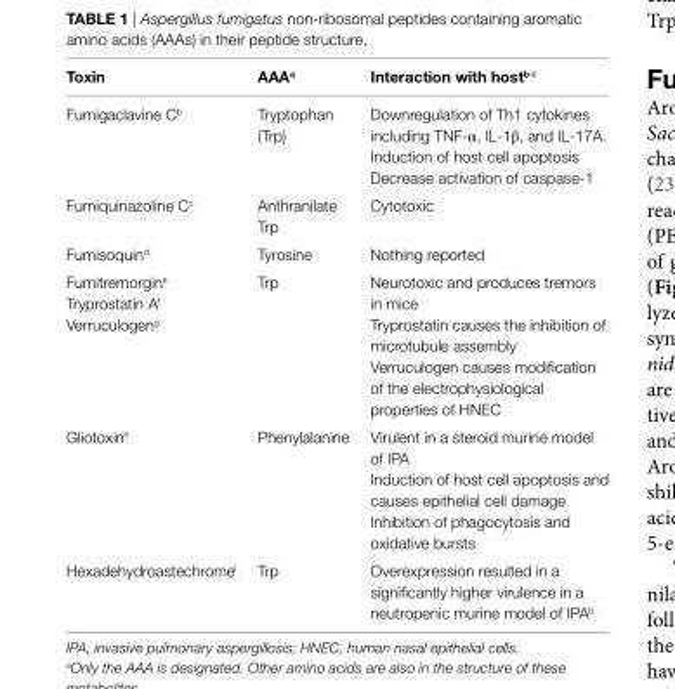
<table><thead><tr><td>Toxin</td><td>AAA<sup>a</sup></td><td>interaction with host<sup>b-i</sup></td></tr></thead><tbody><tr><td>Fumigaclavine C<sup>b</sup></td><td>Tryptophan (Trp)</td><td>Downregulation of Th1 cytokines including TNF-α, IL-1β, and IL-17A. Induction of host cell apoptosis Decrease activation of caspase-1</td></tr><tr><td>Fumiquinazoline C<sup>c</sup></td><td>Anthranilate Trp</td><td>Cytotoxic</td></tr><tr><td>Fumisoquin<sup>d</sup></td><td>Tyrosine</td><td>Nothing reported</td></tr><tr><td>Fumitremorgin<sup>e</sup> Tryprostatin A<sup>f</sup> Verruculogen<sup>g</sup></td><td>Trp</td><td>Neurotoxic and produces tremors in mice Tryprostatin causes the inhibition of microtubule assembly Verruculogen causes modification of the electrophysiological properties of HNEC</td></tr><tr><td>Gliotoxin<sup>h</sup></td><td>Phenylalanine</td><td>Virulent in a steroid murine model of IPA Induction of host cell apoptosis and causes epithelial cell damage Inhibition of phagocytosis and oxidative bursts</td></tr><tr><td>Hexadehydroastechrome<sup>i</sup></td><td>Trp</td><td>Overexpression resulted in a significantly higher virulence in a neutropenic murine model of IPA<sup>b</sup></td></tr></tbody></table>